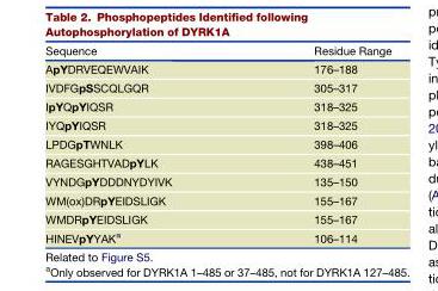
<table><thead><tr><td>Sequence</td><td>Residue Range</td></tr></thead><tbody><tr><td>ApYDRVEQEWVAIK</td><td>176–188</td></tr><tr><td>IVDFGpSSCQLGQR</td><td>305–317</td></tr><tr><td>IpYQpYIQSR</td><td>318–325</td></tr><tr><td>IYQpYIQSR</td><td>318–325</td></tr><tr><td>LPDGpTWNLK</td><td>398–406</td></tr><tr><td>RAGESGHTVADpYLK</td><td>438–451</td></tr><tr><td>VYNDGpYDDDNYDYIVK</td><td>135–150</td></tr><tr><td>WM(ox)DRpYEIDSLIGK</td><td>155–167</td></tr><tr><td>WMDRpYEIDSLIGK</td><td>155–167</td></tr><tr><td>HINEVpYYAK<sup>a</sup></td><td>106–114</td></tr></tbody></table>